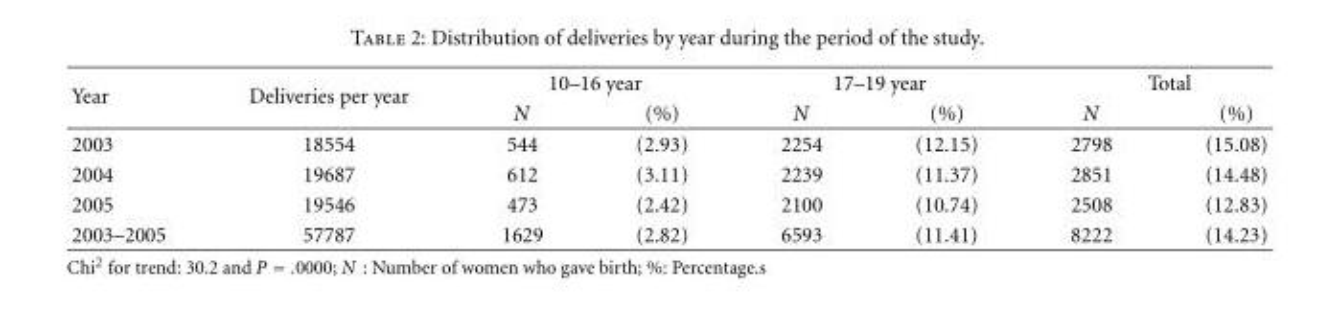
<table><thead><tr><td rowspan="2">Year</td><td rowspan="2">Deliveries per year</td><td colspan="2">10–16 year</td><td colspan="2">17–19 year</td><td colspan="2">Total</td></tr><tr><td>N</td><td>(%)</td><td>N</td><td>(%)</td><td>N</td><td>(%)</td></tr></thead><tbody><tr><td>2003</td><td>18554</td><td>544</td><td>(2.93)</td><td>2254</td><td>(12.15)</td><td>2798</td><td>(15.08)</td></tr><tr><td>2004</td><td>19687</td><td>612</td><td>(3.11)</td><td>2239</td><td>(11.37)</td><td>2851</td><td>(14.48)</td></tr><tr><td>2005</td><td>19546</td><td>473</td><td>(2.42)</td><td>2100</td><td>(10.74)</td><td>2508</td><td>(12.83)</td></tr><tr><td>2003–2005</td><td>57787</td><td>1629</td><td>(2.82)</td><td>6593</td><td>(11.41)</td><td>8222</td><td>(14.23)</td></tr></tbody></table>